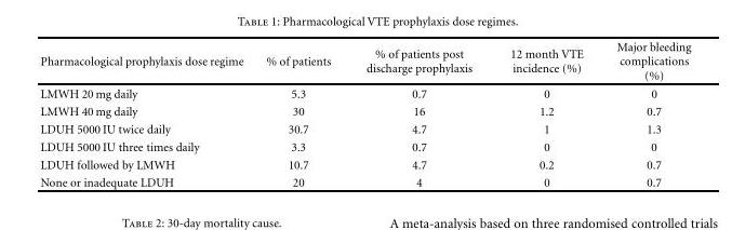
<table><thead><tr><td>Pharmacological prophylaxis dose regime</td><td>% of patients</td><td>% of patients post discharge prophylaxis</td><td>12 month VTE incidence (%)</td><td>Major bleeding complications (%)</td></tr></thead><tbody><tr><td>LMWH 20 mg daily</td><td>5.3</td><td>0.7</td><td>0</td><td>0</td></tr><tr><td>LMWH 40 mg daily</td><td>30</td><td>16</td><td>1.2</td><td>0.7</td></tr><tr><td>LDUH 5000 IU twice daily</td><td>30.7</td><td>4.7</td><td>1</td><td>1.3</td></tr><tr><td>LDUH 5000 IU three times daily</td><td>3.3</td><td>0.7</td><td>0</td><td>0</td></tr><tr><td>LDUH followed by LMWH</td><td>10.7</td><td>4.7</td><td>0.2</td><td>0.7</td></tr><tr><td>None or inadequate LDUH</td><td>20</td><td>4</td><td>0</td><td>0.7</td></tr></tbody></table>